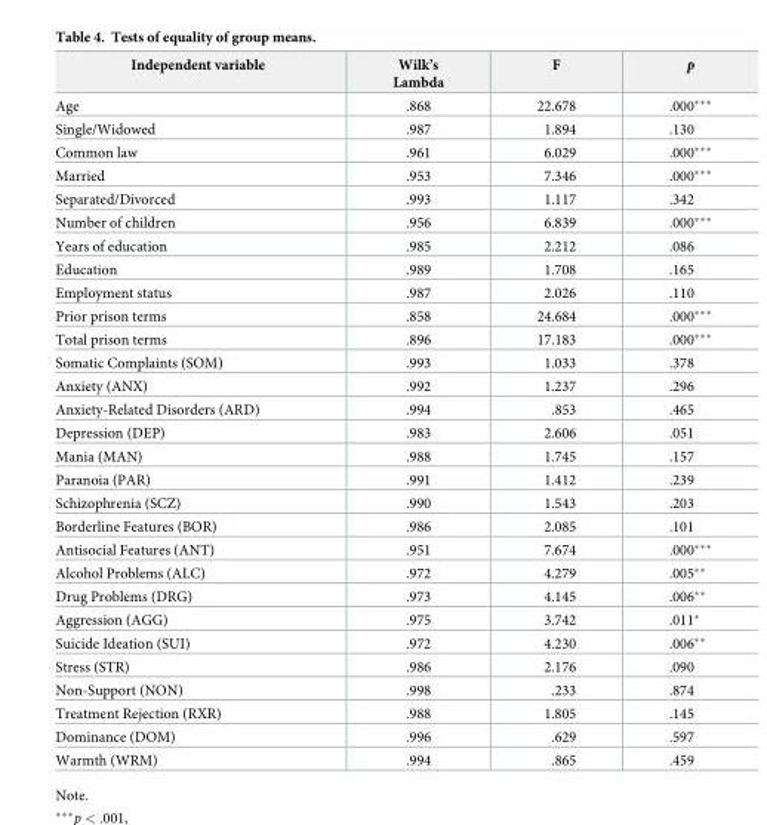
<table><thead><tr><td>Independent variable</td><td>Wilk’s Lambda</td><td>F</td><td>p</td></tr></thead><tbody><tr><td>Age</td><td>.868</td><td>22.678</td><td>.000***</td></tr><tr><td>Single/Widowed</td><td>.987</td><td>1.894</td><td>.130</td></tr><tr><td>Common law</td><td>.961</td><td>6.029</td><td>.000***</td></tr><tr><td>Married</td><td>.953</td><td>7.346</td><td>.000***</td></tr><tr><td>Separated/Divorced</td><td>.993</td><td>1.117</td><td>.342</td></tr><tr><td>Number of children</td><td>.956</td><td>6.839</td><td>.000***</td></tr><tr><td>Years of education</td><td>.985</td><td>2.212</td><td>.086</td></tr><tr><td>Education</td><td>.989</td><td>1.708</td><td>.165</td></tr><tr><td>Employment status</td><td>.987</td><td>2.026</td><td>.110</td></tr><tr><td>Prior prison terms</td><td>.858</td><td>24.684</td><td>.000***</td></tr><tr><td>Total prison terms</td><td>.896</td><td>17.183</td><td>.000***</td></tr><tr><td>Somatic Complaints (SOM)</td><td>.993</td><td>1.033</td><td>.378</td></tr><tr><td>Anxiety (ANX)</td><td>.992</td><td>1.237</td><td>.296</td></tr><tr><td>Anxiety-Related Disorders (ARD)</td><td>.994</td><td>.853</td><td>.465</td></tr><tr><td>Depression (DEP)</td><td>.983</td><td>2.606</td><td>.051</td></tr><tr><td>Mania (MAN)</td><td>.988</td><td>1.745</td><td>.157</td></tr><tr><td>Paranoia (PAR)</td><td>.991</td><td>1.412</td><td>.239</td></tr><tr><td>Schizophrenia (SCZ)</td><td>.990</td><td>1.543</td><td>.203</td></tr><tr><td>Borderline Features (BOR)</td><td>.986</td><td>2.085</td><td>.101</td></tr><tr><td>Antisocial Features (ANT)</td><td>.951</td><td>7.674</td><td>.000***</td></tr><tr><td>Alcohol Problems (ALC)</td><td>.972</td><td>4.279</td><td>.005**</td></tr><tr><td>Drug Problems (DRG)</td><td>.973</td><td>4.145</td><td>.006**</td></tr><tr><td>Aggression (AGG)</td><td>.975</td><td>3.742</td><td>.011*</td></tr><tr><td>Suicide Ideation (SUI)</td><td>.972</td><td>4.230</td><td>.006**</td></tr><tr><td>Stress (STR)</td><td>.986</td><td>2.176</td><td>.090</td></tr><tr><td>Non-Support (NON)</td><td>.998</td><td>.233</td><td>.874</td></tr><tr><td>Treatment Rejection (RXR)</td><td>.988</td><td>1.805</td><td>.145</td></tr><tr><td>Dominance (DOM)</td><td>.996</td><td>.629</td><td>.597</td></tr><tr><td>Warmth (WRM)</td><td>.994</td><td>.865</td><td>.459</td></tr></tbody></table>